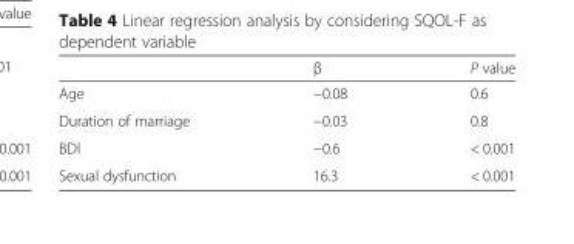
<table><thead><tr><td></td><td>β</td><td>P value</td></tr></thead><tbody><tr><td>Age</td><td>−0.08</td><td>0.6</td></tr><tr><td>Duration of marriage</td><td>−0.03</td><td>0.8</td></tr><tr><td>BDI</td><td>−0.6</td><td>&lt; 0.001</td></tr><tr><td>Sexual dysfunction</td><td>16.3</td><td>&lt; 0.001</td></tr></tbody></table>